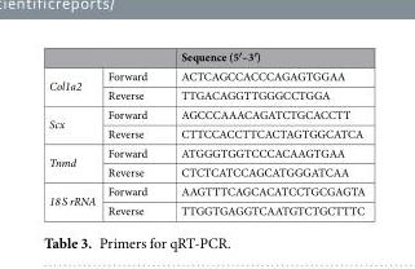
<table><thead><tr><td></td><td></td><td>Sequence (5′–3′)</td></tr></thead><tbody><tr><td rowspan="2">Col1a2</td><td>Forward</td><td>ACTCAGCCACCCAGAGTGGAA</td></tr><tr><td>Reverse</td><td>TTGACAGGTTGGGCCTGGA</td></tr><tr><td rowspan="2">Scx</td><td>Forward</td><td>AGCCCAAACAGATCTGCACCTT</td></tr><tr><td>Reverse</td><td>CTTCCACCTTCACTAGTGGCATCA</td></tr><tr><td rowspan="2">Tnmd</td><td>Forward</td><td>ATGGGTGGTCCCACAAGTGAA</td></tr><tr><td>Reverse</td><td>CTCTCATCCAGCATGGGATCAA</td></tr><tr><td rowspan="2">18 S rRNA</td><td>Forward</td><td>AAGTTTCAGCACATCCTGCGAGTA</td></tr><tr><td>Reverse</td><td>TTGGTGAGGTCAATGTCTGCTTTC</td></tr></tbody></table>